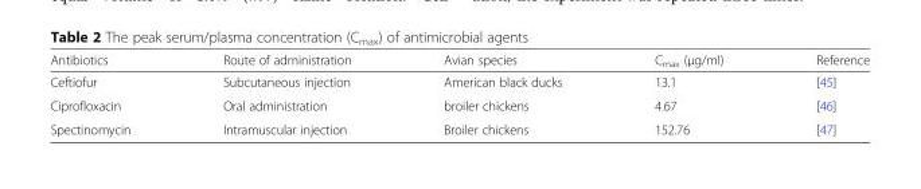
<table><thead><tr><td>Antibiotics</td><td>Route of administration</td><td>Avian species</td><td>C<sub>max</sub> (μg/ml)</td><td>Reference</td></tr></thead><tbody><tr><td>Ceftiofur</td><td>Subcutaneous injection</td><td>American black ducks</td><td>13.1</td><td>[45]</td></tr><tr><td>Ciprofloxacin</td><td>Oral administration</td><td>broiler chickens</td><td>4.67</td><td>[46]</td></tr><tr><td>Spectinomycin</td><td>Intramuscular injection</td><td>Broiler chickens</td><td>152.76</td><td>[47]</td></tr></tbody></table>